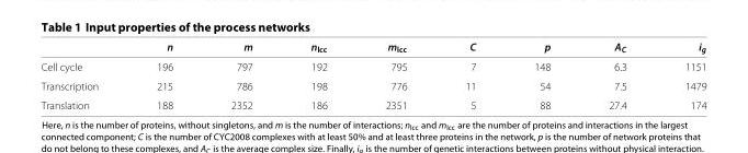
<table><thead><tr><td></td><td>n</td><td>m</td><td>n<sub>lcc</sub></td><td>m<sub>lcc</sub></td><td>C</td><td>p</td><td>A<sub>C</sub></td><td>i<sub>g</sub></td></tr></thead><tbody><tr><td>Cell cycle</td><td>196</td><td>797</td><td>192</td><td>795</td><td>7</td><td>148</td><td>6.3</td><td>1151</td></tr><tr><td>Transcription</td><td>215</td><td>786</td><td>198</td><td>776</td><td>11</td><td>54</td><td>7.5</td><td>1479</td></tr><tr><td>Translation</td><td>188</td><td>2352</td><td>186</td><td>2351</td><td>5</td><td>88</td><td>27.4</td><td>174</td></tr></tbody></table>